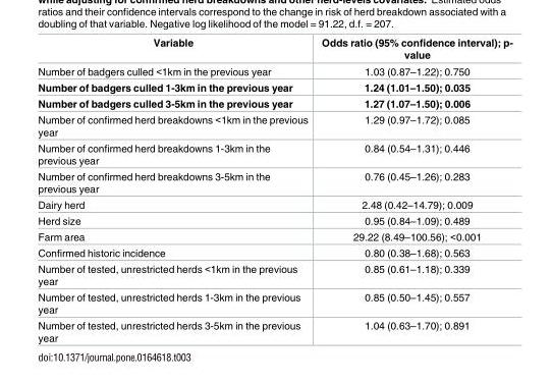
<table><thead><tr><td>Variable</td><td>Odds ratio (95% confidence interval); p- value</td></tr></thead><tbody><tr><td>Number of badgers culled &lt;1km in the previous year</td><td>1.03 (0.87–1.22); 0.750</td></tr><tr><td>Number of badgers culled 1-3km in the previous year</td><td>1.24 (1.01–1.50); 0.035</td></tr><tr><td>Number of badgers culled 3-5km in the previous year</td><td>1.27 (1.07–1.50); 0.006</td></tr><tr><td>Number of confirmed herd breakdowns &lt;1km in the previous year</td><td>1.29 (0.97–1.72); 0.085</td></tr><tr><td>Number of confirmed herd breakdowns 1-3km in the previous year</td><td>0.84 (0.54–1.31); 0.446</td></tr><tr><td>Number of confirmed herd breakdowns 3-5km in the previous year</td><td>0.76 (0.45–1.26); 0.283</td></tr><tr><td>Dairy herd</td><td>2.48 (0.42–14.79); 0.009</td></tr><tr><td>Herd size</td><td>0.95 (0.84–1.09); 0.489</td></tr><tr><td>Farm area</td><td>29.22 (8.49–100.56); &lt;0.001</td></tr><tr><td>Confirmed historic incidence</td><td>0.80 (0.38–1.68); 0.563</td></tr><tr><td>Number of tested, unrestricted herds &lt;1km in the previous year</td><td>0.85 (0.61–1.18); 0.339</td></tr><tr><td>Number of tested, unrestricted herds 1-3km in the previous year</td><td>0.85 (0.50–1.45); 0.557</td></tr><tr><td>Number of tested, unrestricted herds 3-5km in the previous year</td><td>1.04 (0.63–1.70); 0.891</td></tr></tbody></table>